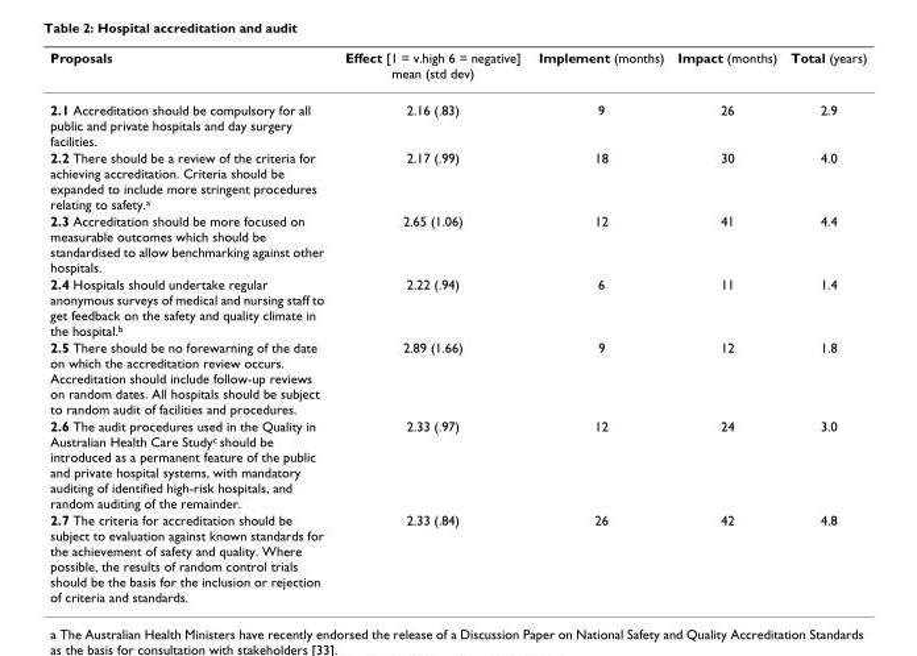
<table><thead><tr><td>Proposals</td><td>Effect [1 = v.high 6 = negative] mean (std dev)</td><td>Implement (months)</td><td>Impact (months)</td><td>Total (years)</td></tr></thead><tbody><tr><td>2.1 Accreditation should be compulsory for all public and private hospitals and day surgery facilities.</td><td>2.16 (.83)</td><td>9</td><td>26</td><td>2.9</td></tr><tr><td>2.2 There should be a review of the criteria for achieving accreditation. Criteria should be expanded to include more stringent procedures relating to safety.<sup>a</sup></td><td>2.17 (.99)</td><td>18</td><td>30</td><td>4.0</td></tr><tr><td>2.3 Accreditation should be more focused on measurable outcomes which should be standardised to allow benchmarking against other hospitals.</td><td>2.65 (1.06)</td><td>12</td><td>41</td><td>4.4</td></tr><tr><td>2.4 Hospitals should undertake regular anonymous surveys of medical and nursing staff to get feedback on the safety and quality climate in the hospital.<sup>b</sup></td><td>2.22 (.94)</td><td>6</td><td>11</td><td>1.4</td></tr><tr><td>2.5 There should be no forewarning of the date on which the accreditation review occurs. Accreditation should include follow-up reviews on random dates. All hospitals should be subject to random audit of facilities and procedures.</td><td>2.89 (1.66)</td><td>9</td><td>12</td><td>1.8</td></tr><tr><td>2.6 The audit procedures used in the Quality in Australian Health Care Study<sup>c</sup> should be introduced as a permanent feature of the public and private hospital systems, with mandatory auditing of identified high-risk hospitals, and random auditing of the remainder.</td><td>2.33 (.97)</td><td>12</td><td>24</td><td>3.0</td></tr><tr><td>2.7 The criteria for accreditation should be subject to evaluation against known standards for the achievement of safety and quality. Where possible, the results of random control trials should be the basis for the inclusion or rejection of criteria and standards.</td><td>2.33 (.84)</td><td>26</td><td>42</td><td>4.8</td></tr></tbody></table>